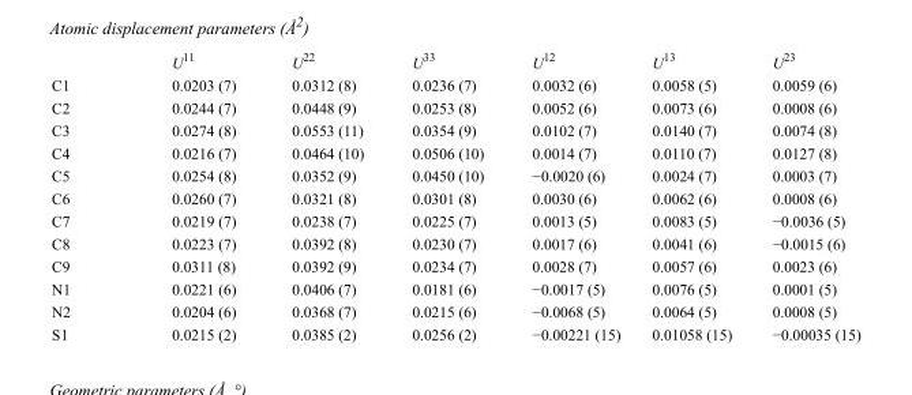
<table><thead><tr><td></td><td>U<sup>11</sup></td><td>U<sup>22</sup></td><td>U<sup>33</sup></td><td>U<sup>12</sup></td><td>U<sup>13</sup></td><td>U<sup>23</sup></td></tr></thead><tbody><tr><td>C1</td><td>0.0203 (7)</td><td>0.0312 (8)</td><td>0.0236 (7)</td><td>0.0032 (6)</td><td>0.0058 (5)</td><td>0.0059 (6)</td></tr><tr><td>C2</td><td>0.0244 (7)</td><td>0.0448 (9)</td><td>0.0253 (8)</td><td>0.0052 (6)</td><td>0.0073 (6)</td><td>0.0008 (6)</td></tr><tr><td>C3</td><td>0.0274 (8)</td><td>0.0553 (11)</td><td>0.0354 (9)</td><td>0.0102 (7)</td><td>0.0140 (7)</td><td>0.0074 (8)</td></tr><tr><td>C4</td><td>0.0216 (7)</td><td>0.0464 (10)</td><td>0.0506 (10)</td><td>0.0014 (7)</td><td>0.0110 (7)</td><td>0.0127 (8)</td></tr><tr><td>C5</td><td>0.0254 (8)</td><td>0.0352 (9)</td><td>0.0450 (10)</td><td>−0.0020 (6)</td><td>0.0024 (7)</td><td>0.0003 (7)</td></tr><tr><td>C6</td><td>0.0260 (7)</td><td>0.0321 (8)</td><td>0.0301 (8)</td><td>0.0030 (6)</td><td>0.0062 (6)</td><td>0.0008 (6)</td></tr><tr><td>C7</td><td>0.0219 (7)</td><td>0.0238 (7)</td><td>0.0225 (7)</td><td>0.0013 (5)</td><td>0.0083 (5)</td><td>−0.0036 (5)</td></tr><tr><td>C8</td><td>0.0223 (7)</td><td>0.0392 (8)</td><td>0.0230 (7)</td><td>0.0017 (6)</td><td>0.0041 (6)</td><td>−0.0015 (6)</td></tr><tr><td>C9</td><td>0.0311 (8)</td><td>0.0392 (9)</td><td>0.0234 (7)</td><td>0.0028 (7)</td><td>0.0057 (6)</td><td>0.0023 (6)</td></tr><tr><td>N1</td><td>0.0221 (6)</td><td>0.0406 (7)</td><td>0.0181 (6)</td><td>−0.0017 (5)</td><td>0.0076 (5)</td><td>0.0001 (5)</td></tr><tr><td>N2</td><td>0.0204 (6)</td><td>0.0368 (7)</td><td>0.0215 (6)</td><td>−0.0068 (5)</td><td>0.0064 (5)</td><td>0.0008 (5)</td></tr><tr><td>S1</td><td>0.0215 (2)</td><td>0.0385 (2)</td><td>0.0256 (2)</td><td>−0.00221 (15)</td><td>0.01058 (15)</td><td>−0.00035 (15)</td></tr></tbody></table>